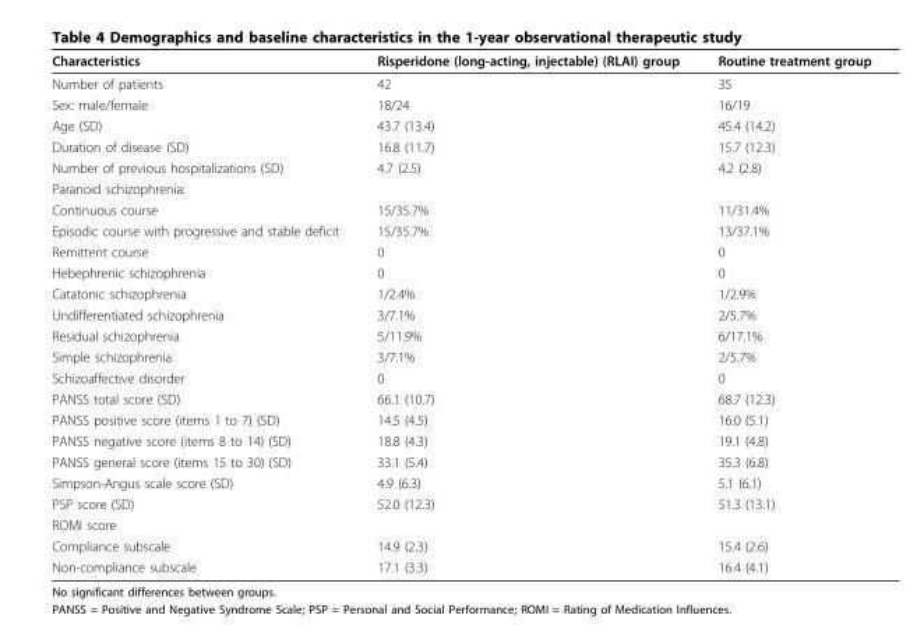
<table><thead><tr><td>Characteristics</td><td>Risperidone (long-acting, injectable) (RLAI) group</td><td>Routine treatment group</td></tr></thead><tbody><tr><td>Number of patients</td><td>42</td><td>35</td></tr><tr><td>Sex: male/female</td><td>18/24</td><td>16/19</td></tr><tr><td>Age (SD)</td><td>43.7 (13.4)</td><td>45.4 (14.2)</td></tr><tr><td>Duration of disease (SD)</td><td>16.8 (11.7)</td><td>15.7 (12.3)</td></tr><tr><td>Number of previous hospitalizations (SD)</td><td>4.7 (2.5)</td><td>4.2 (2.8)</td></tr><tr><td colspan="3">Paranoid schizophrenia:</td></tr><tr><td>Continuous course</td><td>15/35.7%</td><td>11/31.4%</td></tr><tr><td>Episodic course with progressive and stable deficit</td><td>15/35.7%</td><td>13/37.1%</td></tr><tr><td>Remittent course</td><td>0</td><td>0</td></tr><tr><td>Hebephrenic schizophrenia</td><td>0</td><td>0</td></tr><tr><td>Catatonic schizophrenia</td><td>1/2.4%</td><td>1/2.9%</td></tr><tr><td>Undifferentiated schizophrenia</td><td>3/7.1%</td><td>2/5.7%</td></tr><tr><td>Residual schizophrenia</td><td>5/11.9%</td><td>6/17.1%</td></tr><tr><td>Simple schizophrenia</td><td>3/7.1%</td><td>2/5.7%</td></tr><tr><td>Schizoaffective disorder</td><td>0</td><td>0</td></tr><tr><td>PANSS total score (SD)</td><td>66.1 (10.7)</td><td>68.7 (12.3)</td></tr><tr><td>PANSS positive score (items 1 to 7) (SD)</td><td>14.5 (4.5)</td><td>16.0 (5.1)</td></tr><tr><td>PANSS negative score (items 8 to 14) (SD)</td><td>18.8 (4.3)</td><td>19.1 (4.8)</td></tr><tr><td>PANSS general score (items 15 to 30) (SD)</td><td>33.1 (5.4)</td><td>35.3 (6.8)</td></tr><tr><td>Simpson-Angus scale score (SD)</td><td>4.9 (6.3)</td><td>5.1 (6.1)</td></tr><tr><td>PSP score (SD)</td><td>52.0 (12.3)</td><td>51.3 (13.1)</td></tr><tr><td colspan="3">ROMI score</td></tr><tr><td>Compliance subscale</td><td>14.9 (2.3)</td><td>15.4 (2.6)</td></tr><tr><td>Non-compliance subscale</td><td>17.1 (3.3)</td><td>16.4 (4.1)</td></tr></tbody></table>